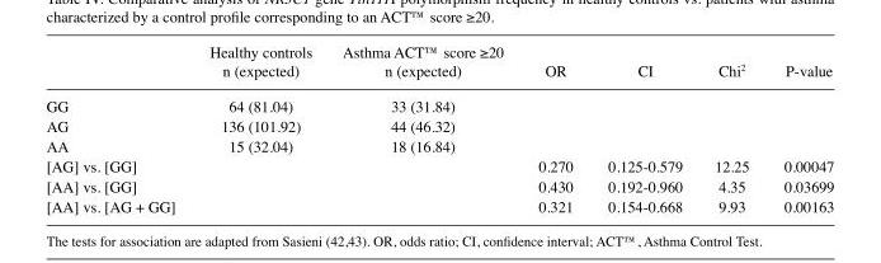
<table><thead><tr><td></td><td>Healthy controls n (expected)</td><td>Asthma ACT™ score ≥20 n (expected)</td><td>OR</td><td>CI</td><td>Chi<sup>2</sup></td><td>P-value</td></tr></thead><tbody><tr><td>GG</td><td>64 (81.04)</td><td>33 (31.84)</td><td></td><td></td><td></td><td></td></tr><tr><td>AG</td><td>136 (101.92)</td><td>44 (46.32)</td><td></td><td></td><td></td><td></td></tr><tr><td>AA</td><td>15 (32.04)</td><td>18 (16.84)</td><td></td><td></td><td></td><td></td></tr><tr><td>[AG] vs. [GG]</td><td></td><td></td><td>0.270</td><td>0.125-0.579</td><td>12.25</td><td>0.00047</td></tr><tr><td>[AA] vs. [GG]</td><td></td><td></td><td>0.430</td><td>0.192-0.960</td><td>4.35</td><td>0.03699</td></tr><tr><td>[AA] vs. [AG + GG]</td><td></td><td></td><td>0.321</td><td>0.154-0.668</td><td>9.93</td><td>0.00163</td></tr></tbody></table>